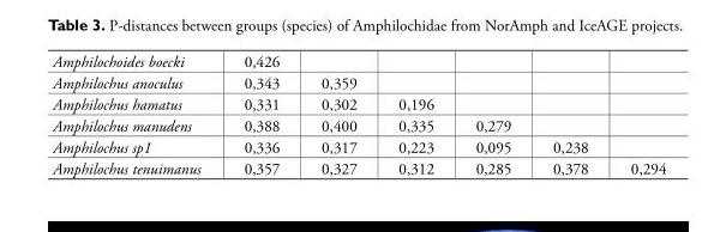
<table><tbody><tr><td>Amphilochoides boecki</td><td>0,426</td><td></td><td></td><td></td><td></td><td></td></tr><tr><td>Amphilochus anoculus</td><td>0,343</td><td>0,359</td><td></td><td></td><td></td><td></td></tr><tr><td>Amphilochus hamatus</td><td>0,331</td><td>0,302</td><td>0,196</td><td></td><td></td><td></td></tr><tr><td>Amphilochus manudens</td><td>0,388</td><td>0,400</td><td>0,335</td><td>0,279</td><td></td><td></td></tr><tr><td>Amphilochus sp1</td><td>0,336</td><td>0,317</td><td>0,223</td><td>0,095</td><td>0,238</td><td></td></tr><tr><td>Amphilochus tenuimanus</td><td>0,357</td><td>0,327</td><td>0,312</td><td>0,285</td><td>0,378</td><td>0,294</td></tr></tbody></table>